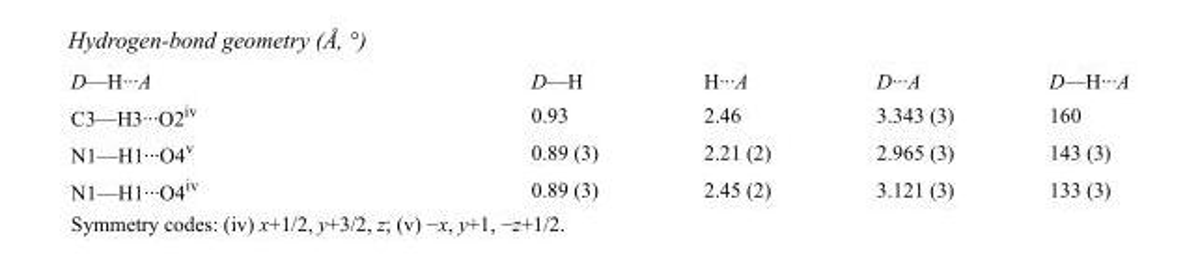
<table><tbody><tr><td>D—H···A</td><td>D—H</td><td>H···A</td><td>D···A</td><td>D—H···A</td></tr><tr><td>C3—H3···O2<sup>iv</sup></td><td>0.93</td><td>2.46</td><td>3.343 (3)</td><td>160</td></tr><tr><td>N1—H1···O4<sup>v</sup></td><td>0.89 (3)</td><td>2.21 (2)</td><td>2.965 (3)</td><td>143 (3)</td></tr><tr><td>N1—H1···O4<sup>iv</sup></td><td>0.89 (3)</td><td>2.45 (2)</td><td>3.121 (3)</td><td>133 (3)</td></tr></tbody></table>